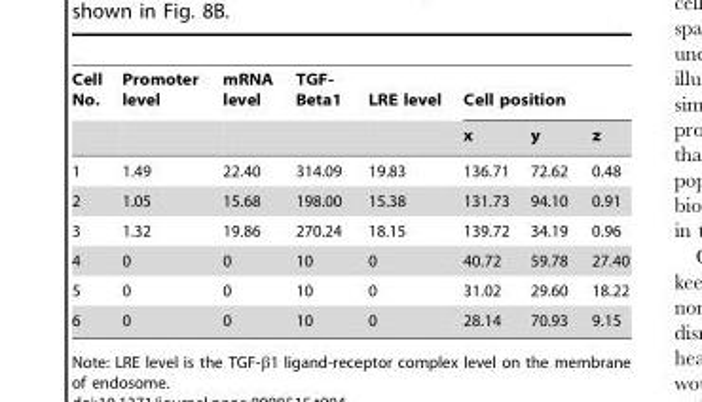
<table><thead><tr><td rowspan="2">Cell No.</td><td rowspan="2">Promoter level</td><td rowspan="2">mRNA level</td><td rowspan="2">TGF- Beta1</td><td rowspan="2">LRE level</td><td colspan="3">Cell position</td></tr><tr><td>x</td><td>y</td><td>z</td></tr></thead><tbody><tr><td>1</td><td>1.49</td><td>22.40</td><td>314.09</td><td>19.83</td><td>136.71</td><td>72.62</td><td>0.48</td></tr><tr><td>2</td><td>1.05</td><td>15.68</td><td>198.00</td><td>15.38</td><td>131.73</td><td>94.10</td><td>0.91</td></tr><tr><td>3</td><td>1.32</td><td>19.86</td><td>270.24</td><td>18.15</td><td>139.72</td><td>34.19</td><td>0.96</td></tr><tr><td>4</td><td>0</td><td>0</td><td>10</td><td>0</td><td>40.72</td><td>59.78</td><td>27.40</td></tr><tr><td>5</td><td>0</td><td>0</td><td>10</td><td>0</td><td>31.02</td><td>29.60</td><td>18.22</td></tr><tr><td>6</td><td>0</td><td>0</td><td>10</td><td>0</td><td>28.14</td><td>70.93</td><td>9.15</td></tr></tbody></table>